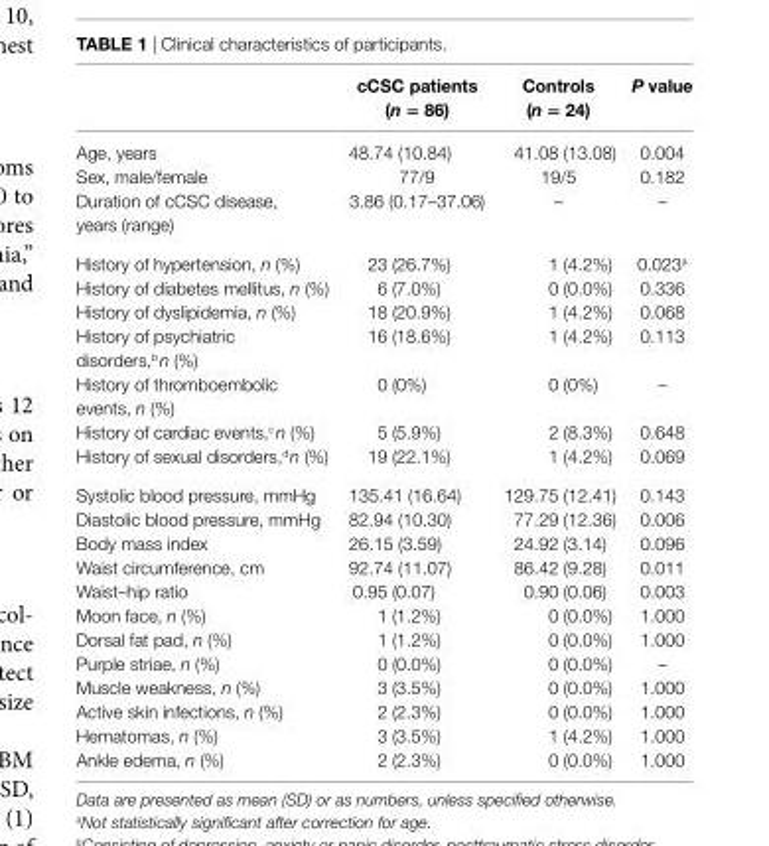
<table><thead><tr><td></td><td>ccsc patients (n = 86)</td><td>controls (n = 24)</td><td>P value</td></tr></thead><tbody><tr><td>Age, years</td><td>48.74 (10.84)</td><td>41.08 (13.08)</td><td>0.004</td></tr><tr><td>Sex, male/female</td><td>77/9</td><td>19/5</td><td>0.182</td></tr><tr><td>Duration of cCSC disease, years (range)</td><td>3.86 (0.17–37.06)</td><td>–</td><td>–</td></tr><tr><td>History of hypertension, n (%)</td><td>23 (26.7%)</td><td>1 (4.2%)</td><td>0.023<sup>a</sup></td></tr><tr><td>History of diabetes mellitus, n (%)</td><td>6 (7.0%)</td><td>0 (0.0%)</td><td>0.336</td></tr><tr><td>History of dyslipidemia, n (%)</td><td>18 (20.9%)</td><td>1 (4.2%)</td><td>0.068</td></tr><tr><td>History of psychiatric disorders,<sup>b</sup>n (%)</td><td>16 (18.6%)</td><td>1 (4.2%)</td><td>0.113</td></tr><tr><td>History of thromboembolic events, n (%)</td><td>0 (0%)</td><td>0 (0%)</td><td>–</td></tr><tr><td>History of cardiac events,<sup>c</sup>n (%)</td><td>5 (5.9%)</td><td>2 (8.3%)</td><td>0.648</td></tr><tr><td>History of sexual disorders,<sup>d</sup>n (%)</td><td>19 (22.1%)</td><td>1 (4.2%)</td><td>0.069</td></tr><tr><td>Systolic blood pressure, mmHg</td><td>135.41 (16.64)</td><td>129.75 (12.41)</td><td>0.143</td></tr><tr><td>Diastolic blood pressure, mmHg</td><td>82.94 (10.30)</td><td>77.29 (12.36)</td><td>0.006</td></tr><tr><td>Body mass index</td><td>26.15 (3.59)</td><td>24.92 (3.14)</td><td>0.096</td></tr><tr><td>Waist circumference, cm</td><td>92.74 (11.07)</td><td>86.42 (9.28)</td><td>0.011</td></tr><tr><td>Waist–hip ratio</td><td>0.95 (0.07)</td><td>0.90 (0.06)</td><td>0.003</td></tr><tr><td>Moon face, n (%)</td><td>1 (1.2%)</td><td>0 (0.0%)</td><td>1.000</td></tr><tr><td>Dorsal fat pad, n (%)</td><td>1 (1.2%)</td><td>0 (0.0%)</td><td>1.000</td></tr><tr><td>Purple striae, n (%)</td><td>0 (0.0%)</td><td>0 (0.0%)</td><td>–</td></tr><tr><td>Muscle weakness, n (%)</td><td>3 (3.5%)</td><td>0 (0.0%)</td><td>1.000</td></tr><tr><td>Active skin infections, n (%)</td><td>2 (2.3%)</td><td>0 (0.0%)</td><td>1.000</td></tr><tr><td>Hematomas, n (%)</td><td>3 (3.5%)</td><td>1 (4.2%)</td><td>1.000</td></tr><tr><td>Ankle edema, n (%)</td><td>2 (2.3%)</td><td>0 (0.0%)</td><td>1.000</td></tr></tbody></table>